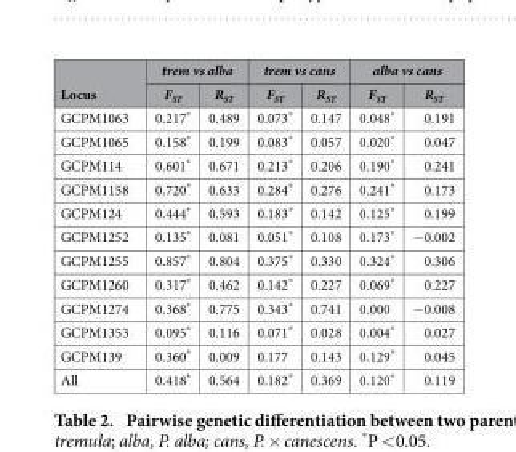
<table><thead><tr><td rowspan="2">Locus</td><td colspan="2">trem vs alba</td><td colspan="2">trem vs cans</td><td colspan="2">alba vs cans</td></tr><tr><td>F<sub>ST</sub></td><td>R<sub>ST</sub></td><td>F<sub>ST</sub></td><td>R<sub>ST</sub></td><td>F<sub>ST</sub></td><td>R<sub>ST</sub></td></tr></thead><tbody><tr><td>GCPM1063</td><td>0.217*</td><td>0.489</td><td>0.073*</td><td>0.147</td><td>0.048*</td><td>0.191</td></tr><tr><td>GCPM1065</td><td>0.158*</td><td>0.199</td><td>0.083*</td><td>0.057</td><td>0.020*</td><td>0.047</td></tr><tr><td>GCPM114</td><td>0.601*</td><td>0.671</td><td>0.213*</td><td>0.206</td><td>0.190*</td><td>0.241</td></tr><tr><td>GCPM1158</td><td>0.720*</td><td>0.633</td><td>0.284*</td><td>0.276</td><td>0.241*</td><td>0.173</td></tr><tr><td>GCPM124</td><td>0.444*</td><td>0.593</td><td>0.183*</td><td>0.142</td><td>0.125*</td><td>0.199</td></tr><tr><td>GCPM1252</td><td>0.135*</td><td>0.081</td><td>0.051*</td><td>0.108</td><td>0.173*</td><td>− 0.002</td></tr><tr><td>GCPM1255</td><td>0.857*</td><td>0.804</td><td>0.375*</td><td>0.330</td><td>0.324*</td><td>0.306</td></tr><tr><td>GCPM1260</td><td>0.317*</td><td>0.462</td><td>0.142*</td><td>0.227</td><td>0.069*</td><td>0.227</td></tr><tr><td>GCPM1274</td><td>0.368*</td><td>0.775</td><td>0.343*</td><td>0.741</td><td>0.000</td><td>− 0.008</td></tr><tr><td>GCPM1353</td><td>0.095*</td><td>0.116</td><td>0.071*</td><td>0.028</td><td>0.004*</td><td>0.027</td></tr><tr><td>GCPM139</td><td>0.360*</td><td>0.009</td><td>0.177</td><td>0.143</td><td>0.129*</td><td>0.045</td></tr><tr><td>All</td><td>0.418*</td><td>0.564</td><td>0.182*</td><td>0.369</td><td>0.120*</td><td>0.119</td></tr></tbody></table>